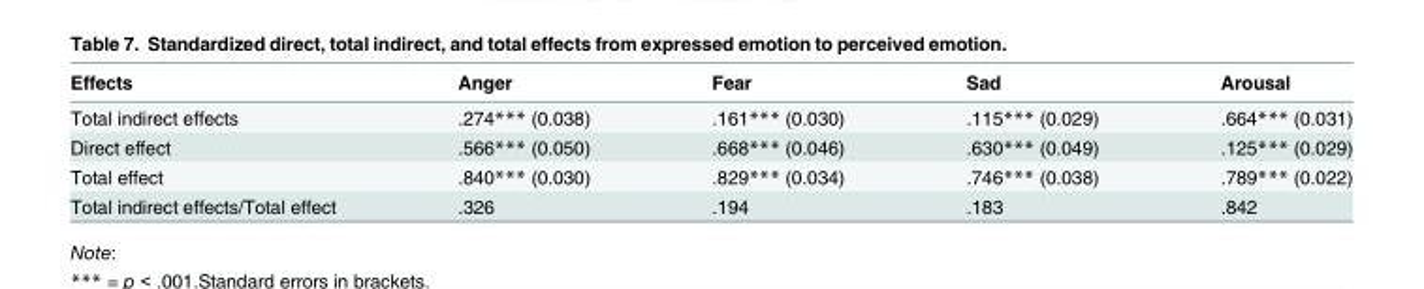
<table><thead><tr><td>Effects</td><td>Anger</td><td>Fear</td><td>Sad</td><td>Arousal</td></tr></thead><tbody><tr><td>Total indirect effects</td><td>.274*** (0.038)</td><td>.161*** (0.030)</td><td>.115*** (0.029)</td><td>.664*** (0.031)</td></tr><tr><td>Direct effect</td><td>.566*** (0.050)</td><td>.668*** (0.046)</td><td>.630*** (0.049)</td><td>.125*** (0.029)</td></tr><tr><td>Total effect</td><td>.840*** (0.030)</td><td>.829*** (0.034)</td><td>.746*** (0.038)</td><td>.789*** (0.022)</td></tr><tr><td>Total indirect effects/Total effect</td><td>.326</td><td>.194</td><td>.183</td><td>.842</td></tr></tbody></table>